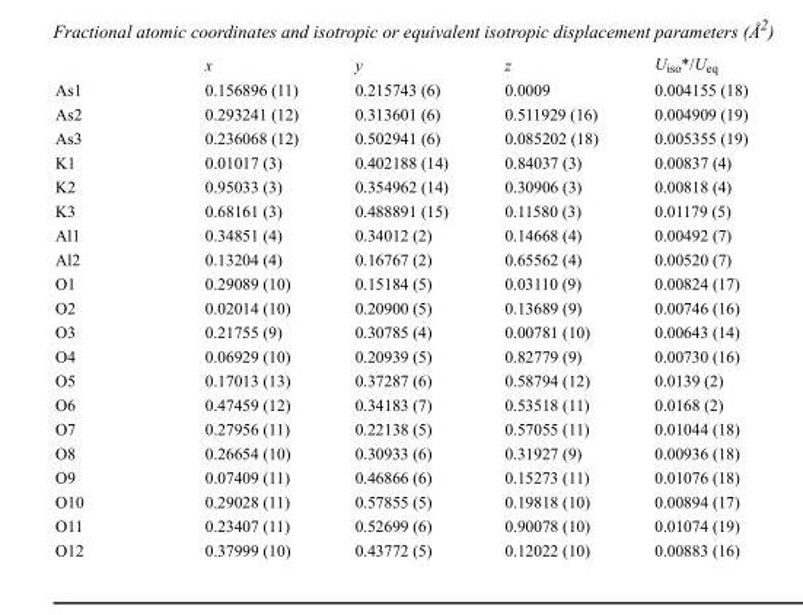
<table><thead><tr><td></td><td>x</td><td>y</td><td>z</td><td>U<sub>iso</sub>*/U<sub>eq</sub></td></tr></thead><tbody><tr><td>As1</td><td>0.156896 (11)</td><td>0.215743 (6)</td><td>0.0009</td><td>0.004155 (18)</td></tr><tr><td>As2</td><td>0.293241 (12)</td><td>0.313601 (6)</td><td>0.511929 (16)</td><td>0.004909 (19)</td></tr><tr><td>As3</td><td>0.236068 (12)</td><td>0.502941 (6)</td><td>0.085202 (18)</td><td>0.005355 (19)</td></tr><tr><td>K1</td><td>0.01017 (3)</td><td>0.402188 (14)</td><td>0.84037 (3)</td><td>0.00837 (4)</td></tr><tr><td>K2</td><td>0.95033 (3)</td><td>0.354962 (14)</td><td>0.30906 (3)</td><td>0.00818 (4)</td></tr><tr><td>K3</td><td>0.68161 (3)</td><td>0.488891 (15)</td><td>0.11580 (3)</td><td>0.01179 (5)</td></tr><tr><td>Al1</td><td>0.34851 (4)</td><td>0.34012 (2)</td><td>0.14668 (4)</td><td>0.00492 (7)</td></tr><tr><td>Al2</td><td>0.13204 (4)</td><td>0.16767 (2)</td><td>0.65562 (4)</td><td>0.00520 (7)</td></tr><tr><td>O1</td><td>0.29089 (10)</td><td>0.15184 (5)</td><td>0.03110 (9)</td><td>0.00824 (17)</td></tr><tr><td>O2</td><td>0.02014 (10)</td><td>0.20900 (5)</td><td>0.13689 (9)</td><td>0.00746 (16)</td></tr><tr><td>O3</td><td>0.21755 (9)</td><td>0.30785 (4)</td><td>0.00781 (10)</td><td>0.00643 (14)</td></tr><tr><td>O4</td><td>0.06929 (10)</td><td>0.20939 (5)</td><td>0.82779 (9)</td><td>0.00730 (16)</td></tr><tr><td>O5</td><td>0.17013 (13)</td><td>0.37287 (6)</td><td>0.58794 (12)</td><td>0.0139 (2)</td></tr><tr><td>O6</td><td>0.47459 (12)</td><td>0.34183 (7)</td><td>0.53518 (11)</td><td>0.0168 (2)</td></tr><tr><td>O7</td><td>0.27956 (11)</td><td>0.22138 (5)</td><td>0.57055 (11)</td><td>0.01044 (18)</td></tr><tr><td>O8</td><td>0.26654 (10)</td><td>0.30933 (6)</td><td>0.31927 (9)</td><td>0.00936 (18)</td></tr><tr><td>O9</td><td>0.07409 (11)</td><td>0.46866 (6)</td><td>0.15273 (11)</td><td>0.01076 (18)</td></tr><tr><td>O10</td><td>0.29028 (11)</td><td>0.57855 (5)</td><td>0.19818 (10)</td><td>0.00894 (17)</td></tr><tr><td>O11</td><td>0.23407 (11)</td><td>0.52699 (6)</td><td>0.90078 (10)</td><td>0.01074 (19)</td></tr><tr><td>O12</td><td>0.37999 (10)</td><td>0.43772 (5)</td><td>0.12022 (10)</td><td>0.00883 (16)</td></tr></tbody></table>